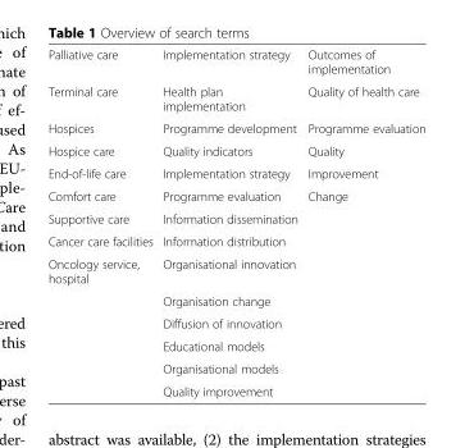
<table><tbody><tr><td>Palliative care</td><td>Implementation strategy</td><td>Outcomes of implementation</td></tr><tr><td>Terminal care</td><td>Health plan implementation</td><td>Quality of health care</td></tr><tr><td>Hospices</td><td>Programme development</td><td>Programme evaluation</td></tr><tr><td>Hospice care</td><td>Quality indicators</td><td>Quality</td></tr><tr><td>End-of-life care</td><td>Implementation strategy</td><td>Improvement</td></tr><tr><td>Comfort care</td><td>Programme evaluation</td><td>Change</td></tr><tr><td>Supportive care</td><td>Information dissemination</td><td></td></tr><tr><td>Cancer care facilities</td><td>Information distribution</td><td></td></tr><tr><td rowspan="6">Oncology service, hospital</td><td>Organisational innovation</td><td></td></tr><tr><td>Organisation change</td><td></td></tr><tr><td>Diffusion of innovation</td><td></td></tr><tr><td>Educational models</td><td></td></tr><tr><td>Organisational models</td><td></td></tr><tr><td>Quality improvement</td><td></td></tr></tbody></table>